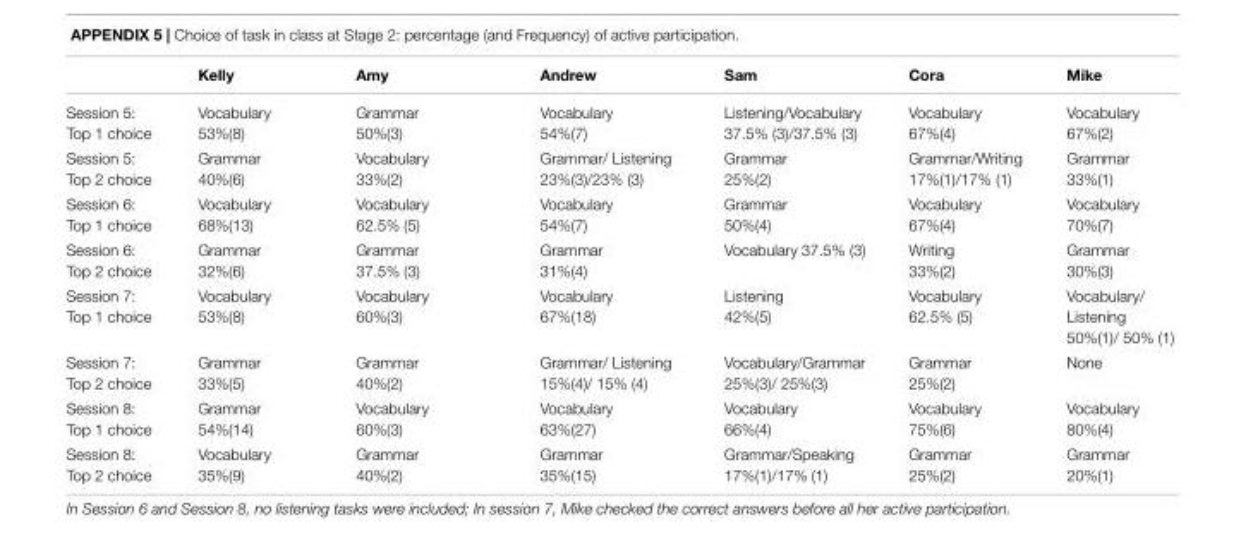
<table><thead><tr><td></td><td>Kelly</td><td>Amy</td><td>Andrew</td><td>Sam</td><td>Cora</td><td>Mike</td></tr></thead><tbody><tr><td>Session 5: Top 1 choice</td><td>Vocabulary 53%(8)</td><td>Grammar 50%(3)</td><td>Vocabulary 54%(7)</td><td>Listening/Vocabulary 37.5% (3)/37.5% (3)</td><td>Vocabulary 67%(4)</td><td>Vocabulary 67%(2)</td></tr><tr><td>Session 5: Top 2 choice</td><td>Grammar 40%(6)</td><td>Vocabulary 33%(2)</td><td>Grammar/ Listening 23%(3)/23% (3)</td><td>Grammar 25%(2)</td><td>Grammar/Writing 17%(1)/17% (1)</td><td>Grammar 33%(1)</td></tr><tr><td>Session 6: Top 1 choice</td><td>Vocabulary 68%(13)</td><td>Vocabulary 62.5% (5)</td><td>Vocabulary 54%(7)</td><td>Grammar 50%(4)</td><td>Vocabulary 67%(4)</td><td>Vocabulary 70%(7)</td></tr><tr><td>Session 6: Top 2 choice</td><td>Grammar 32%(6)</td><td>Grammar 37.5% (3)</td><td>Grammar 31%(4)</td><td>Vocabulary 37.5% (3)</td><td>Writing 33%(2)</td><td>Grammar 30%(3)</td></tr><tr><td>Session 7: Top 1 choice</td><td>Vocabulary 53%(8)</td><td>Vocabulary 60%(3)</td><td>Vocabulary 67%(18)</td><td>Listening 42%(5)</td><td>Vocabulary 62.5% (5)</td><td>Vocabulary/ Listening 50%(1)/ 50% (1)</td></tr><tr><td>Session 7: Top 2 choice</td><td>Grammar 33%(5)</td><td>Grammar 40%(2)</td><td>Grammar/ Listening 15%(4)/ 15% (4)</td><td>Vocabulary/Grammar 25%(3)/ 25%(3)</td><td>Grammar 25%(2)</td><td>None</td></tr><tr><td>Session 8: Top 1 choice</td><td>Grammar 54%(14)</td><td>Vocabulary 60%(3)</td><td>Vocabulary 63%(27)</td><td>Vocabulary 66%(4)</td><td>Vocabulary 75%(6)</td><td>Vocabulary 80%(4)</td></tr><tr><td>Session 8: Top 2 choice</td><td>Vocabulary 35%(9)</td><td>Grammar 40%(2)</td><td>Grammar 35%(15)</td><td>Grammar/Speaking 17%(1)/17% (1)</td><td>Grammar 25%(2)</td><td>Grammar 20%(1)</td></tr></tbody></table>